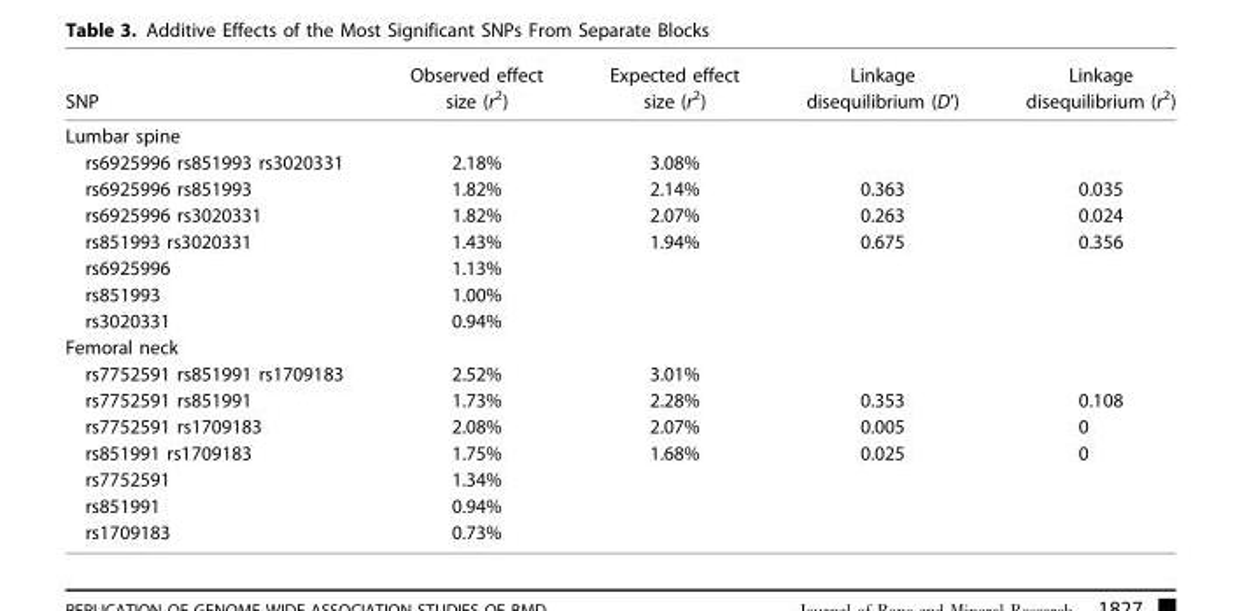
<table><thead><tr><td>SNP</td><td>Observed effect size (r<sup>2</sup>)</td><td>Expected effect size (r<sup>2</sup>)</td><td>Linkage disequilibrium (D’)</td><td>Linkage disequilibrium (r<sup>2</sup>)</td></tr></thead><tbody><tr><td colspan="5">Lumbar spine</td></tr><tr><td>rs6925996 rs851993 rs3020331</td><td>2.18%</td><td>3.08%</td><td></td><td></td></tr><tr><td>rs6925996 rs851993</td><td>1.82%</td><td>2.14%</td><td>0.363</td><td>0.035</td></tr><tr><td>rs6925996 rs3020331</td><td>1.82%</td><td>2.07%</td><td>0.263</td><td>0.024</td></tr><tr><td>rs851993 rs3020331</td><td>1.43%</td><td>1.94%</td><td>0.675</td><td>0.356</td></tr><tr><td>rs6925996</td><td>1.13%</td><td></td><td></td><td></td></tr><tr><td>rs851993</td><td>1.00%</td><td></td><td></td><td></td></tr><tr><td>rs3020331</td><td>0.94%</td><td></td><td></td><td></td></tr><tr><td colspan="5">Femoral neck</td></tr><tr><td>rs7752591 rs851991 rs1709183</td><td>2.52%</td><td>3.01%</td><td></td><td></td></tr><tr><td>rs7752591 rs851991</td><td>1.73%</td><td>2.28%</td><td>0.353</td><td>0.108</td></tr><tr><td>rs7752591 rs1709183</td><td>2.08%</td><td>2.07%</td><td>0.005</td><td>0</td></tr><tr><td>rs851991 rs1709183</td><td>1.75%</td><td>1.68%</td><td>0.025</td><td>0</td></tr><tr><td>rs7752591</td><td>1.34%</td><td></td><td></td><td></td></tr><tr><td>rs851991</td><td>0.94%</td><td></td><td></td><td></td></tr><tr><td>rs1709183</td><td>0.73%</td><td></td><td></td><td></td></tr></tbody></table>